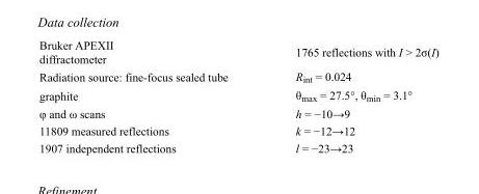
<table><tbody><tr><td>Bruker APEXII diffractometer</td><td>1765 reflections with I &gt; 2σ(I)</td></tr><tr><td>Radiation source: fine-focus sealed tube</td><td>R<sub>int</sub> = 0.024</td></tr><tr><td>graphite</td><td>θ<sub>max</sub> = 27.5°, θ<sub>min</sub> = 3.1°</td></tr><tr><td>φ and ω scans</td><td>h = −10→9</td></tr><tr><td>11809 measured reflections</td><td>k = −12→12</td></tr><tr><td>1907 independent reflections</td><td>l = −23→23</td></tr></tbody></table>